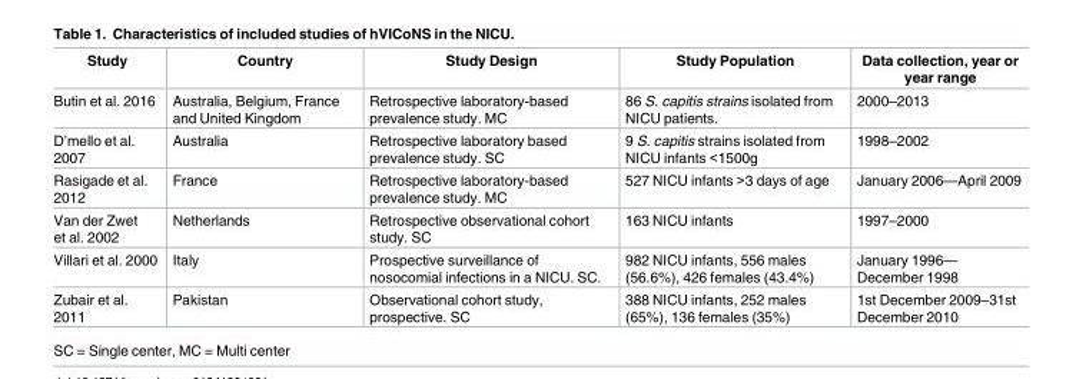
<table><thead><tr><td>Study</td><td>Country</td><td>Study Design</td><td>Study Population</td><td>Data collection, year or year range</td></tr></thead><tbody><tr><td>Butin et al. 2016</td><td>Australia, Belgium, France and United Kingdom</td><td>Retrospective laboratory-based prevalence study. MC</td><td>86 S. capitis strains isolated from NICU patients.</td><td>2000–2013</td></tr><tr><td>D’mello et al. 2007</td><td>Australia</td><td>Retrospective laboratory based prevalence study. SC</td><td>9 S. capitis strains isolated from NICU infants &lt;1500g</td><td>1998–2002</td></tr><tr><td>Rasigade et al. 2012</td><td>France</td><td>Retrospective laboratory-based prevalence study. MC</td><td>527 NICU infants &gt;3 days of age</td><td>January 2006—April 2009</td></tr><tr><td>Van der Zwet et al. 2002</td><td>Netherlands</td><td>Retrospective observational cohort study. SC</td><td>163 NICU infants</td><td>1997–2000</td></tr><tr><td>Villari et al. 2000</td><td>Italy</td><td>Prospective surveillance of nosocomial infections in a NICU. SC.</td><td>982 NICU infants, 556 males (56.6%), 426 females (43.4%)</td><td>January 1996— December 1998</td></tr><tr><td>Zubair et al. 2011</td><td>Pakistan</td><td>Observational cohort study, prospective. SC</td><td>388 NICU infants, 252 males (65%), 136 females (35%)</td><td>1st December 2009–31st December 2010</td></tr></tbody></table>